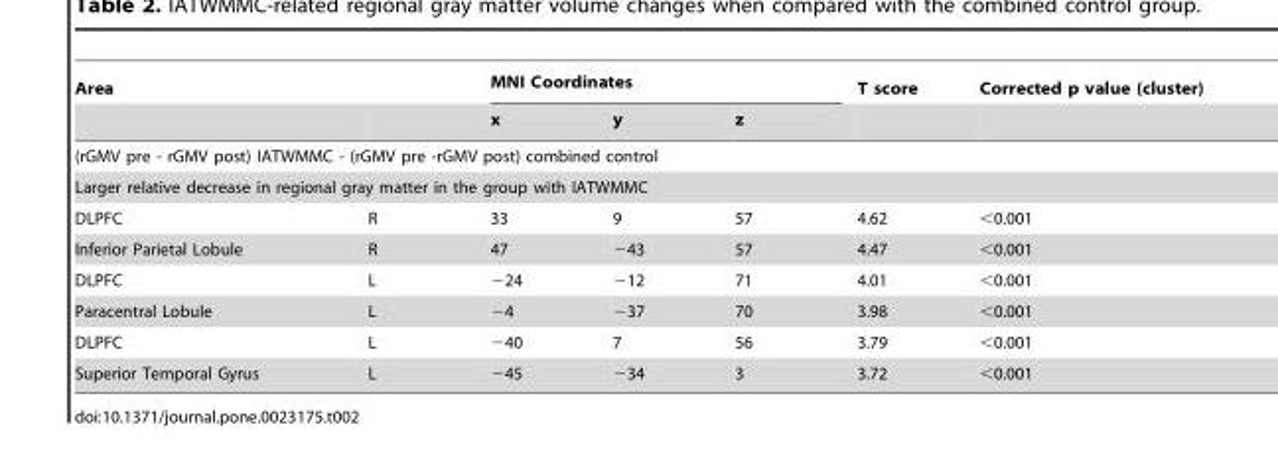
<table><thead><tr><td rowspan="2">Area</td><td rowspan="2"></td><td colspan="3">MNI Coordinates</td><td rowspan="2">T score</td><td rowspan="2">Corrected p value (cluster)</td></tr><tr><td>x</td><td>y</td><td>z</td></tr></thead><tbody><tr><td colspan="7">(rGMV pre - rGMV post) IATWMMC - (rGMV pre -rGMV post) combined control</td></tr><tr><td colspan="7">Larger relative decrease in regional gray matter in the group with IATWMMC</td></tr><tr><td>DLPFC</td><td>R</td><td>33</td><td>9</td><td>57</td><td>4.62</td><td>&lt;0.001</td></tr><tr><td>Inferior Parietal Lobule</td><td>R</td><td>47</td><td>−43</td><td>57</td><td>4.47</td><td>&lt;0.001</td></tr><tr><td>DLPFC</td><td>L</td><td>−24</td><td>−12</td><td>71</td><td>4.01</td><td>&lt;0.001</td></tr><tr><td>Paracentral Lobule</td><td>L</td><td>−4</td><td>−37</td><td>70</td><td>3.98</td><td>&lt;0.001</td></tr><tr><td>DLPFC</td><td>L</td><td>−40</td><td>7</td><td>56</td><td>3.79</td><td>&lt;0.001</td></tr><tr><td>Superior Temporal Gyrus</td><td>L</td><td>−45</td><td>−34</td><td>3</td><td>3.72</td><td>&lt;0.001</td></tr></tbody></table>